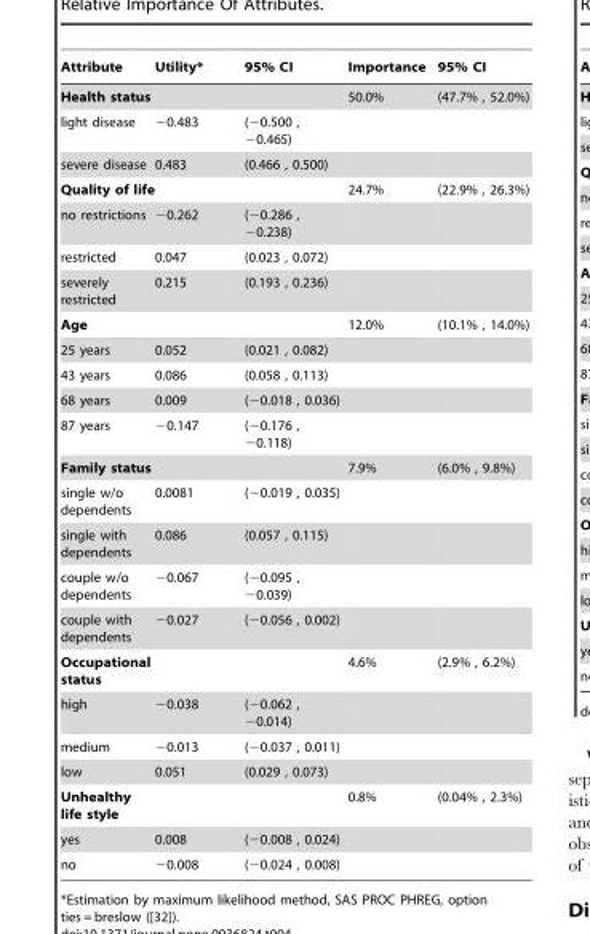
<table><thead><tr><td>Attribute</td><td>Utility*</td><td>95% CI</td><td>Importance</td><td>95% CI</td></tr></thead><tbody><tr><td>Health status</td><td></td><td></td><td>50.0%</td><td>(47.7% , 52.0%)</td></tr><tr><td>light disease</td><td>−0.483</td><td>(−0.500 , −0.465)</td><td></td><td></td></tr><tr><td>severe disease</td><td>0.483</td><td>(0.466 , 0.500)</td><td></td><td></td></tr><tr><td>Quality of life</td><td></td><td></td><td>24.7%</td><td>(22.9% , 26.3%)</td></tr><tr><td>no restrictions</td><td>−0.262</td><td>(−0.286 , −0.238)</td><td></td><td></td></tr><tr><td>restricted</td><td>0.047</td><td>(0.023 , 0.072)</td><td></td><td></td></tr><tr><td>severely restricted</td><td>0.215</td><td>(0.193 , 0.236)</td><td></td><td></td></tr><tr><td>Age</td><td></td><td></td><td>12.0%</td><td>(10.1% , 14.0%)</td></tr><tr><td>25 years</td><td>0.052</td><td>(0.021 , 0.082)</td><td></td><td></td></tr><tr><td>43 years</td><td>0.086</td><td>(0.058 , 0.113)</td><td></td><td></td></tr><tr><td>68 years</td><td>0.009</td><td>(−0.018 , 0.036)</td><td></td><td></td></tr><tr><td>87 years</td><td>−0.147</td><td>(−0.176 , −0.118)</td><td></td><td></td></tr><tr><td>Family status</td><td></td><td></td><td>7.9%</td><td>(6.0% , 9.8%)</td></tr><tr><td>single w/o dependents</td><td>0.0081</td><td>(−0.019 , 0.035)</td><td></td><td></td></tr><tr><td>single with dependents</td><td>0.086</td><td>(0.057 , 0.115)</td><td></td><td></td></tr><tr><td>couple w/o dependents</td><td>−0.067</td><td>(−0.095 , −0.039)</td><td></td><td></td></tr><tr><td>couple with dependents</td><td>−0.027</td><td>(−0.056 , 0.002)</td><td></td><td></td></tr><tr><td>Occupational status</td><td></td><td></td><td>4.6%</td><td>(2.9% , 6.2%)</td></tr><tr><td>high</td><td>−0.038</td><td>(−0.062 , −0.014)</td><td></td><td></td></tr><tr><td>medium</td><td>−0.013</td><td>(−0.037 , 0.011)</td><td></td><td></td></tr><tr><td>low</td><td>0.051</td><td>(0.029 , 0.073)</td><td></td><td></td></tr><tr><td>Unhealthy life style</td><td></td><td></td><td>0.8%</td><td>(0.04% , 2.3%)</td></tr><tr><td>yes</td><td>0.008</td><td>(−0.008 , 0.024)</td><td></td><td></td></tr><tr><td>no</td><td>−0.008</td><td>(−0.024 , 0.008)</td><td></td><td></td></tr></tbody></table>